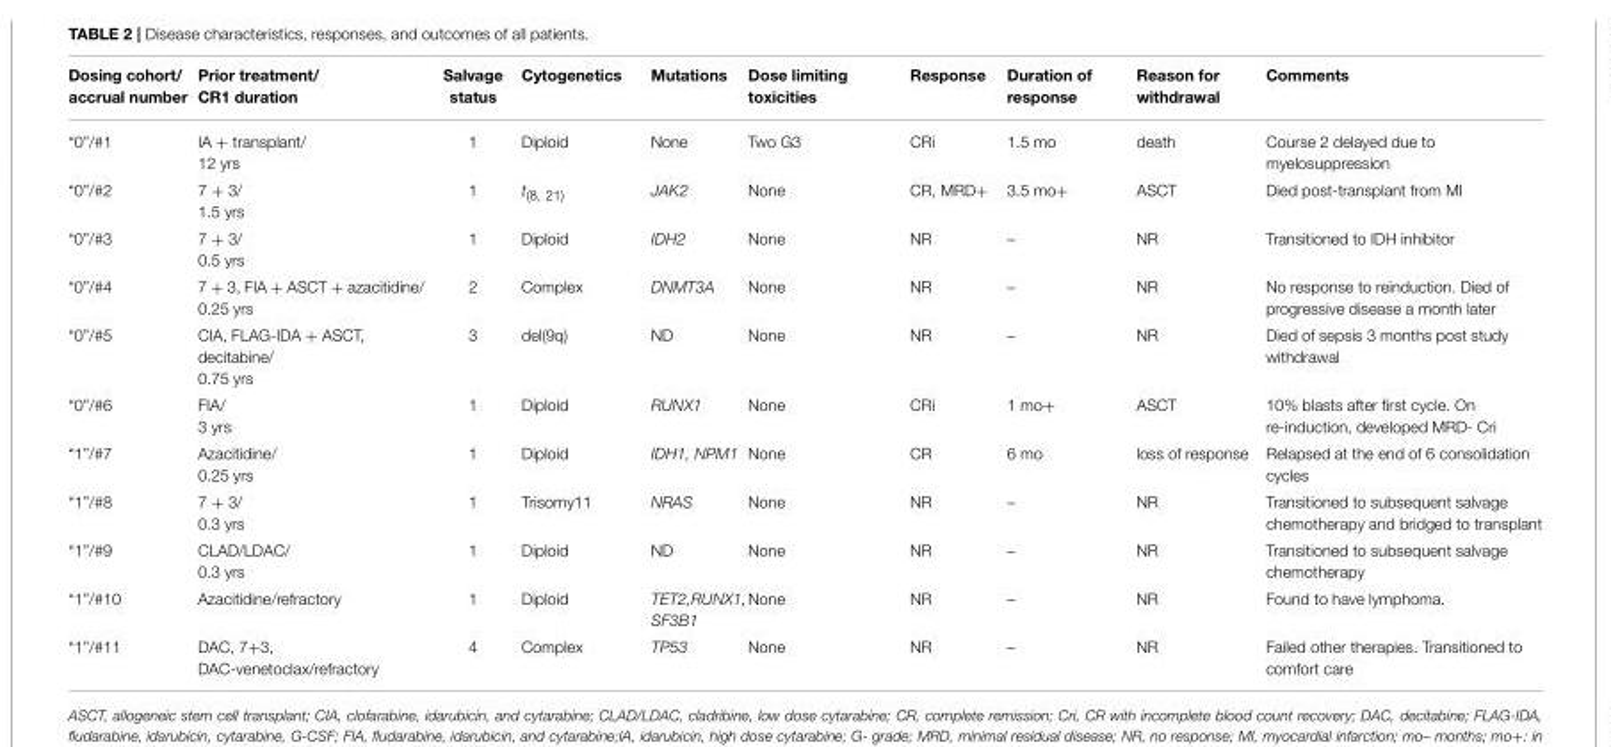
<table><thead><tr><td>Dosing cohort/ accrual number</td><td>Prior treatment/ CR1 duration</td><td>Salvage status</td><td>Cytogenetics</td><td>Mutations</td><td>Dose limiting toxicities</td><td>Response</td><td>Duration of response</td><td>Reason for withdrawal</td><td>Comments</td></tr></thead><tbody><tr><td>“0”/#1</td><td>IA + transplant/ 12 yrs</td><td>1</td><td>Diploid</td><td>None</td><td>Two G3</td><td>CRi</td><td>1.5 mo</td><td>death</td><td>Course 2 delayed due to myelosuppression</td></tr><tr><td>“0”/#2</td><td>7 + 3/ 1.5 yrs</td><td>1</td><td>t<sub>(8, 21)</sub></td><td>JAK2</td><td>None</td><td>CR, MRD+</td><td>3.5 mo+</td><td>ASCT</td><td>Died post-transplant from MI</td></tr><tr><td>“0”/#3</td><td>7 + 3/ 0.5 yrs</td><td>1</td><td>Diploid</td><td>IDH2</td><td>None</td><td>NR</td><td>–</td><td>NR</td><td>Transitioned to IDH inhibitor</td></tr><tr><td>“0”/#4</td><td>7 + 3, FIA + ASCT + azacitidine/ 0.25 yrs</td><td>2</td><td>Complex</td><td>DNMT3A</td><td>None</td><td>NR</td><td>–</td><td>NR</td><td>No response to reinduction. Died of progressive disease a month later</td></tr><tr><td>“0”/#5</td><td>CIA, FLAG-IDA + ASCT, decitabine/ 0.75 yrs</td><td>3</td><td>del(9q)</td><td>ND</td><td>None</td><td>NR</td><td>–</td><td>NR</td><td>Died of sepsis 3 months post study withdrawal</td></tr><tr><td>“0”/#6</td><td>FIA/ 3 yrs</td><td>1</td><td>Diploid</td><td>RUNX1</td><td>None</td><td>CRi</td><td>1 mo+</td><td>ASCT</td><td>10% blasts after first cycle. On re-induction, developed MRD- Cri</td></tr><tr><td>“1”/#7</td><td>Azacitidine/ 0.25 yrs</td><td>1</td><td>Diploid</td><td>IDH1, NPM1</td><td>None</td><td>CR</td><td>6 mo</td><td>loss of response</td><td>Relapsed at the end of 6 consolidation cycles</td></tr><tr><td>“1”/#8</td><td>7 + 3/ 0.3 yrs</td><td>1</td><td>Trisomy11</td><td>NRAS</td><td>None</td><td>NR</td><td>–</td><td>NR</td><td>Transitioned to subsequent salvage chemotherapy and bridged to transplant</td></tr><tr><td>“1”/#9</td><td>CLAD/LDAC/ 0.3 yrs</td><td>1</td><td>Diploid</td><td>ND</td><td>None</td><td>NR</td><td>–</td><td>NR</td><td>Transitioned to subsequent salvage chemotherapy</td></tr><tr><td>“1”/#10</td><td>Azacitidine/refractory</td><td>1</td><td>Diploid</td><td>TET2,RUNX1, SF3B1</td><td>None</td><td>NR</td><td>–</td><td>NR</td><td>Found to have lymphoma.</td></tr><tr><td>“1”/#11</td><td>DAC, 7+3, DAC-venetoclax/refractory</td><td>4</td><td>Complex</td><td>TP53</td><td>None</td><td>NR</td><td>–</td><td>NR</td><td>Failed other therapies. Transitioned to comfort care</td></tr></tbody></table>